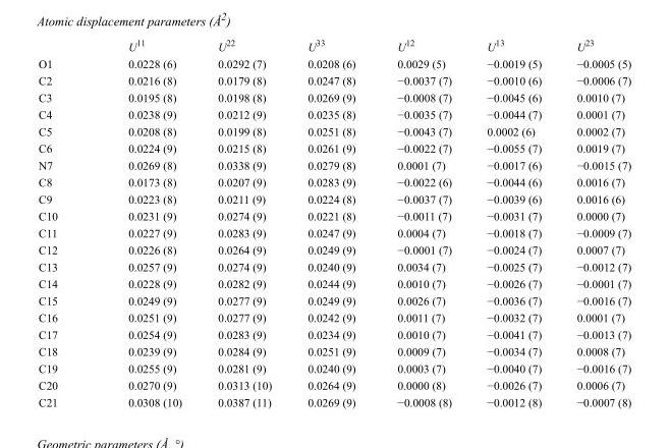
<table><thead><tr><td></td><td>U<sup>11</sup></td><td>U<sup>22</sup></td><td>U<sup>33</sup></td><td>U<sup>12</sup></td><td>U<sup>13</sup></td><td>U<sup>23</sup></td></tr></thead><tbody><tr><td>O1</td><td>0.0228 (6)</td><td>0.0292 (7)</td><td>0.0208 (6)</td><td>0.0029 (5)</td><td>−0.0019 (5)</td><td>−0.0005 (5)</td></tr><tr><td>C2</td><td>0.0216 (8)</td><td>0.0179 (8)</td><td>0.0247 (8)</td><td>−0.0037 (7)</td><td>−0.0010 (6)</td><td>−0.0006 (7)</td></tr><tr><td>C3</td><td>0.0195 (8)</td><td>0.0198 (8)</td><td>0.0269 (9)</td><td>−0.0008 (7)</td><td>−0.0045 (6)</td><td>0.0010 (7)</td></tr><tr><td>C4</td><td>0.0238 (9)</td><td>0.0212 (9)</td><td>0.0235 (8)</td><td>−0.0035 (7)</td><td>−0.0044 (7)</td><td>0.0001 (7)</td></tr><tr><td>C5</td><td>0.0208 (8)</td><td>0.0199 (8)</td><td>0.0251 (8)</td><td>−0.0043 (7)</td><td>0.0002 (6)</td><td>0.0002 (7)</td></tr><tr><td>C6</td><td>0.0224 (9)</td><td>0.0215 (8)</td><td>0.0261 (9)</td><td>−0.0022 (7)</td><td>−0.0055 (7)</td><td>0.0019 (7)</td></tr><tr><td>N7</td><td>0.0269 (8)</td><td>0.0338 (9)</td><td>0.0279 (8)</td><td>0.0001 (7)</td><td>−0.0017 (6)</td><td>−0.0015 (7)</td></tr><tr><td>C8</td><td>0.0173 (8)</td><td>0.0207 (9)</td><td>0.0283 (9)</td><td>−0.0022 (6)</td><td>−0.0044 (6)</td><td>0.0016 (7)</td></tr><tr><td>C9</td><td>0.0223 (8)</td><td>0.0211 (9)</td><td>0.0224 (8)</td><td>−0.0037 (7)</td><td>−0.0039 (6)</td><td>0.0016 (6)</td></tr><tr><td>C10</td><td>0.0231 (9)</td><td>0.0274 (9)</td><td>0.0221 (8)</td><td>−0.0011 (7)</td><td>−0.0031 (7)</td><td>0.0000 (7)</td></tr><tr><td>C11</td><td>0.0227 (9)</td><td>0.0283 (9)</td><td>0.0247 (9)</td><td>0.0004 (7)</td><td>−0.0018 (7)</td><td>−0.0009 (7)</td></tr><tr><td>C12</td><td>0.0226 (8)</td><td>0.0264 (9)</td><td>0.0249 (9)</td><td>−0.0001 (7)</td><td>−0.0024 (7)</td><td>0.0007 (7)</td></tr><tr><td>C13</td><td>0.0257 (9)</td><td>0.0274 (9)</td><td>0.0240 (9)</td><td>0.0034 (7)</td><td>−0.0025 (7)</td><td>−0.0012 (7)</td></tr><tr><td>C14</td><td>0.0228 (9)</td><td>0.0282 (9)</td><td>0.0244 (9)</td><td>0.0010 (7)</td><td>−0.0026 (7)</td><td>−0.0001 (7)</td></tr><tr><td>C15</td><td>0.0249 (9)</td><td>0.0277 (9)</td><td>0.0249 (9)</td><td>0.0026 (7)</td><td>−0.0036 (7)</td><td>−0.0016 (7)</td></tr><tr><td>C16</td><td>0.0251 (9)</td><td>0.0277 (9)</td><td>0.0242 (9)</td><td>0.0011 (7)</td><td>−0.0032 (7)</td><td>0.0001 (7)</td></tr><tr><td>C17</td><td>0.0254 (9)</td><td>0.0283 (9)</td><td>0.0234 (9)</td><td>0.0010 (7)</td><td>−0.0041 (7)</td><td>−0.0013 (7)</td></tr><tr><td>C18</td><td>0.0239 (9)</td><td>0.0284 (9)</td><td>0.0251 (9)</td><td>0.0009 (7)</td><td>−0.0034 (7)</td><td>0.0008 (7)</td></tr><tr><td>C19</td><td>0.0255 (9)</td><td>0.0281 (9)</td><td>0.0240 (9)</td><td>0.0003 (7)</td><td>−0.0040 (7)</td><td>−0.0016 (7)</td></tr><tr><td>C20</td><td>0.0270 (9)</td><td>0.0313 (10)</td><td>0.0264 (9)</td><td>0.0000 (8)</td><td>−0.0026 (7)</td><td>0.0006 (7)</td></tr><tr><td>C21</td><td>0.0308 (10)</td><td>0.0387 (11)</td><td>0.0269 (9)</td><td>−0.0008 (8)</td><td>−0.0012 (8)</td><td>−0.0007 (8)</td></tr></tbody></table>